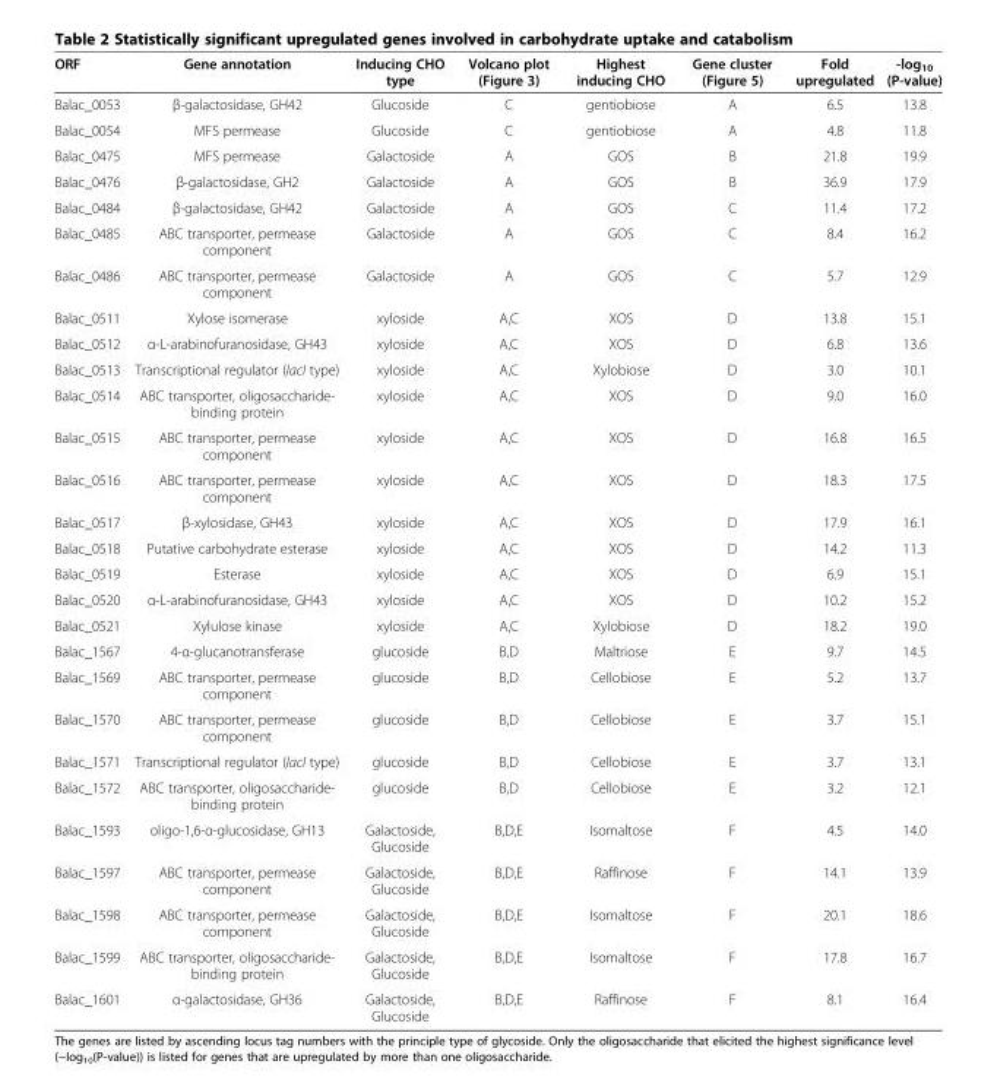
<table><thead><tr><td>ORF</td><td>Gene annotation</td><td>Inducing CHO type</td><td>Volcano plot (Figure 3)</td><td>Highest inducing CHO</td><td>Gene cluster (Figure 5)</td><td>Fold upregulated</td><td>-log<sub>10</sub> (P-value)</td></tr></thead><tbody><tr><td>Balac_0053</td><td>β-galactosidase, GH42</td><td>Glucoside</td><td>C</td><td>gentiobiose</td><td>A</td><td>6.5</td><td>13.8</td></tr><tr><td>Balac_0054</td><td>MFS permease</td><td>Glucoside</td><td>C</td><td>gentiobiose</td><td>A</td><td>4.8</td><td>11.8</td></tr><tr><td>Balac_0475</td><td>MFS permease</td><td>Galactoside</td><td>A</td><td>GOS</td><td>B</td><td>21.8</td><td>19.9</td></tr><tr><td>Balac_0476</td><td>β-galactosidase, GH2</td><td>Galactoside</td><td>A</td><td>GOS</td><td>B</td><td>36.9</td><td>17.9</td></tr><tr><td>Balac_0484</td><td>β-galactosidase, GH42</td><td>Galactoside</td><td>A</td><td>GOS</td><td>C</td><td>11.4</td><td>17.2</td></tr><tr><td>Balac_0485</td><td>ABC transporter, permease component</td><td>Galactoside</td><td>A</td><td>GOS</td><td>C</td><td>8.4</td><td>16.2</td></tr><tr><td>Balac_0486</td><td>ABC transporter, permease component</td><td>Galactoside</td><td>A</td><td>GOS</td><td>C</td><td>5.7</td><td>12.9</td></tr><tr><td>Balac_0511</td><td>Xylose isomerase</td><td>xyloside</td><td>A,C</td><td>XOS</td><td>D</td><td>13.8</td><td>15.1</td></tr><tr><td>Balac_0512</td><td>α-L-arabinofuranosidase, GH43</td><td>xyloside</td><td>A,C</td><td>XOS</td><td>D</td><td>6.8</td><td>13.6</td></tr><tr><td>Balac_0513</td><td>Transcriptional regulator (lacI type)</td><td>xyloside</td><td>A,C</td><td>Xylobiose</td><td>D</td><td>3.0</td><td>10.1</td></tr><tr><td>Balac_0514</td><td>ABC transporter, oligosaccharide- binding protein</td><td>xyloside</td><td>A,C</td><td>XOS</td><td>D</td><td>9.0</td><td>16.0</td></tr><tr><td>Balac_0515</td><td>ABC transporter, permease component</td><td>xyloside</td><td>A,C</td><td>XOS</td><td>D</td><td>16.8</td><td>16.5</td></tr><tr><td>Balac_0516</td><td>ABC transporter, permease component</td><td>xyloside</td><td>A,C</td><td>XOS</td><td>D</td><td>18.3</td><td>17.5</td></tr><tr><td>Balac_0517</td><td>β-xylosidase, GH43</td><td>xyloside</td><td>A,C</td><td>XOS</td><td>D</td><td>17.9</td><td>16.1</td></tr><tr><td>Balac_0518</td><td>Putative carbohydrate esterase</td><td>xyloside</td><td>A,C</td><td>XOS</td><td>D</td><td>14.2</td><td>11.3</td></tr><tr><td>Balac_0519</td><td>Esterase</td><td>xyloside</td><td>A,C</td><td>XOS</td><td>D</td><td>6.9</td><td>15.1</td></tr><tr><td>Balac_0520</td><td>α-L-arabinofuranosidase, GH43</td><td>xyloside</td><td>A,C</td><td>XOS</td><td>D</td><td>10.2</td><td>15.2</td></tr><tr><td>Balac_0521</td><td>Xylulose kinase</td><td>xyloside</td><td>A,C</td><td>Xylobiose</td><td>D</td><td>18.2</td><td>19.0</td></tr><tr><td>Balac_1567</td><td>4-α-glucanotransferase</td><td>glucoside</td><td>B,D</td><td>Maltriose</td><td>E</td><td>9.7</td><td>14.5</td></tr><tr><td>Balac_1569</td><td>ABC transporter, permease component</td><td>glucoside</td><td>B,D</td><td>Cellobiose</td><td>E</td><td>5.2</td><td>13.7</td></tr><tr><td>Balac_1570</td><td>ABC transporter, permease component</td><td>glucoside</td><td>B,D</td><td>Cellobiose</td><td>E</td><td>3.7</td><td>15.1</td></tr><tr><td>Balac_1571</td><td>Transcriptional regulator (lacI type)</td><td>glucoside</td><td>B,D</td><td>Cellobiose</td><td>E</td><td>3.7</td><td>13.1</td></tr><tr><td>Balac_1572</td><td>ABC transporter, oligosaccharide- binding protein</td><td>glucoside</td><td>B,D</td><td>Cellobiose</td><td>E</td><td>3.2</td><td>12.1</td></tr><tr><td>Balac_1593</td><td>oligo-1,6-α-glucosidase, GH13</td><td>Galactoside, Glucoside</td><td>B,D,E</td><td>Isomaltose</td><td>F</td><td>4.5</td><td>14.0</td></tr><tr><td>Balac_1597</td><td>ABC transporter, permease component</td><td>Galactoside, Glucoside</td><td>B,D,E</td><td>Raffinose</td><td>F</td><td>14.1</td><td>13.9</td></tr><tr><td>Balac_1598</td><td>ABC transporter, permease component</td><td>Galactoside, Glucoside</td><td>B,D,E</td><td>Isomaltose</td><td>F</td><td>20.1</td><td>18.6</td></tr><tr><td>Balac_1599</td><td>ABC transporter, oligosaccharide- binding protein</td><td>Galactoside, Glucoside</td><td>B,D,E</td><td>Isomaltose</td><td>F</td><td>17.8</td><td>16.7</td></tr><tr><td>Balac_1601</td><td>α-galactosidase, GH36</td><td>Galactoside, Glucoside</td><td>B,D,E</td><td>Raffinose</td><td>F</td><td>8.1</td><td>16.4</td></tr></tbody></table>